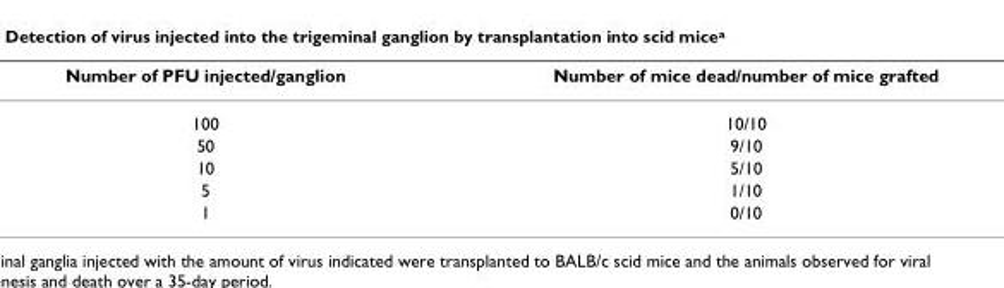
<table><thead><tr><td>Number of PFU injected/ganglion</td><td>Number of mice dead/number of mice grafted</td></tr></thead><tbody><tr><td>100</td><td>10/10</td></tr><tr><td>50</td><td>9/10</td></tr><tr><td>10</td><td>5/10</td></tr><tr><td>5</td><td>1/10</td></tr><tr><td>1</td><td>0/10</td></tr></tbody></table>